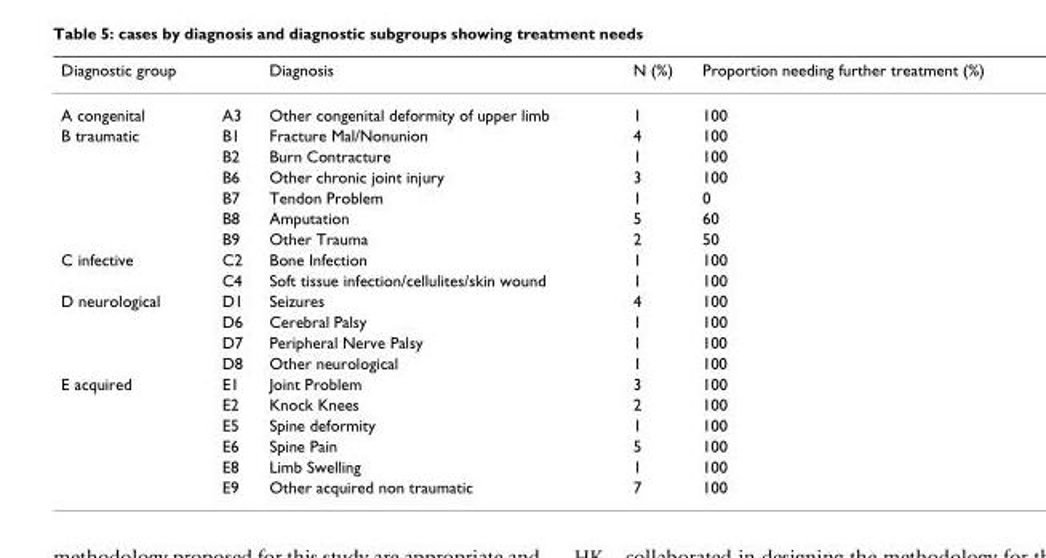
<table><thead><tr><td>Diagnostic group</td><td></td><td>Diagnosis</td><td>N (%)</td><td>Proportion needing further treatment (%)</td></tr></thead><tbody><tr><td>A congenital</td><td>A3</td><td>Other congenital deformity of upper limb</td><td>1</td><td>100</td></tr><tr><td rowspan="6">B traumatic</td><td>B1</td><td>Fracture Mal/Nonunion</td><td>4</td><td>100</td></tr><tr><td>B2</td><td>Burn Contracture</td><td>1</td><td>100</td></tr><tr><td>B6</td><td>Other chronic joint injury</td><td>3</td><td>100</td></tr><tr><td>B7</td><td>Tendon Problem</td><td>1</td><td>0</td></tr><tr><td>B8</td><td>Amputation</td><td>5</td><td>60</td></tr><tr><td>B9</td><td>Other Trauma</td><td>2</td><td>50</td></tr><tr><td rowspan="2">C infective</td><td>C2</td><td>Bone Infection</td><td>1</td><td>100</td></tr><tr><td>C4</td><td>Soft tissue infection/cellulites/skin wound</td><td>1</td><td>100</td></tr><tr><td rowspan="4">D neurological</td><td>D1</td><td>Seizures</td><td>4</td><td>100</td></tr><tr><td>D6</td><td>Cerebral Palsy</td><td>1</td><td>100</td></tr><tr><td>D7</td><td>Peripheral Nerve Palsy</td><td>1</td><td>100</td></tr><tr><td>D8</td><td>Other neurological</td><td>1</td><td>100</td></tr><tr><td rowspan="6">E acquired</td><td>E1</td><td>Joint Problem</td><td>3</td><td>100</td></tr><tr><td>E2</td><td>Knock Knees</td><td>2</td><td>100</td></tr><tr><td>E5</td><td>Spine deformity</td><td>1</td><td>100</td></tr><tr><td>E6</td><td>Spine Pain</td><td>5</td><td>100</td></tr><tr><td>E8</td><td>Limb Swelling</td><td>1</td><td>100</td></tr><tr><td>E9</td><td>Other acquired non traumatic</td><td>7</td><td>100</td></tr></tbody></table>